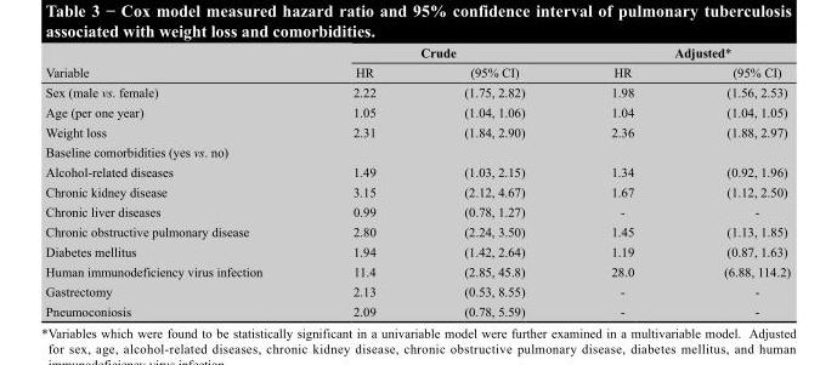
<table><thead><tr><td rowspan="2">Variable</td><td colspan="2">Crude</td><td colspan="2">Adjusted*</td></tr><tr><td>HR</td><td>(95% CI)</td><td>HR</td><td>(95% CI)</td></tr></thead><tbody><tr><td>Sex (male vs. female)</td><td>2.22</td><td>(1.75, 2.82)</td><td>1.98</td><td>(1.56, 2.53)</td></tr><tr><td>Age (per one year)</td><td>1.05</td><td>(1.04, 1.06)</td><td>1.04</td><td>(1.04, 1.05)</td></tr><tr><td>Weight loss</td><td>2.31</td><td>(1.84, 2.90)</td><td>2.36</td><td>(1.88, 2.97)</td></tr><tr><td colspan="5">Baseline comorbidities (yes vs. no)</td></tr><tr><td>Alcohol-related diseases</td><td>1.49</td><td>(1.03, 2.15)</td><td>1.34</td><td>(0.92, 1.96)</td></tr><tr><td>Chronic kidney disease</td><td>3.15</td><td>(2.12, 4.67)</td><td>1.67</td><td>(1.12, 2.50)</td></tr><tr><td>Chronic liver diseases</td><td>0.99</td><td>(0.78, 1.27)</td><td>-</td><td>-</td></tr><tr><td>Chronic obstructive pulmonary disease</td><td>2.80</td><td>(2.24, 3.50)</td><td>1.45</td><td>(1.13, 1.85)</td></tr><tr><td>Diabetes mellitus</td><td>1.94</td><td>(1.42, 2.64)</td><td>1.19</td><td>(0.87, 1.63)</td></tr><tr><td>Human immunodeficiency virus infection</td><td>11.4</td><td>(2.85, 45.8)</td><td>28.0</td><td>(6.88, 114.2)</td></tr><tr><td>Gastrectomy</td><td>2.13</td><td>(0.53, 8.55)</td><td>-</td><td>-</td></tr><tr><td>Pneumoconiosis</td><td>2.09</td><td>(0.78, 5.59)</td><td>-</td><td>-</td></tr></tbody></table>